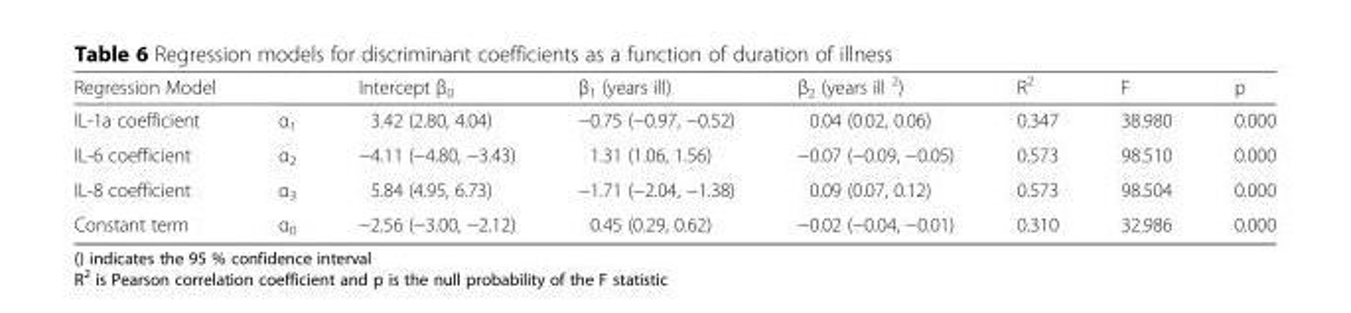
<table><thead><tr><td>Regression Model</td><td></td><td>Intercept β<sub>0</sub></td><td>β<sub>1</sub> (years ill)</td><td>β<sub>2</sub> (years ill <sup>2</sup>)</td><td>R<sup>2</sup></td><td>F</td><td>p</td></tr></thead><tbody><tr><td>IL-1a coefficient</td><td>α<sub>1</sub></td><td>3.42 (2.80, 4.04)</td><td>−0.75 (−0.97, −0.52)</td><td>0.04 (0.02, 0.06)</td><td>0.347</td><td>38.980</td><td>0.000</td></tr><tr><td>IL-6 coefficient</td><td>α<sub>2</sub></td><td>−4.11 (−4.80, −3.43)</td><td>1.31 (1.06, 1.56)</td><td>−0.07 (−0.09, −0.05)</td><td>0.573</td><td>98.510</td><td>0.000</td></tr><tr><td>IL-8 coefficient</td><td>α<sub>3</sub></td><td>5.84 (4.95, 6.73)</td><td>−1.71 (−2.04, −1.38)</td><td>0.09 (0.07, 0.12)</td><td>0.573</td><td>98.504</td><td>0.000</td></tr><tr><td>Constant term</td><td>α<sub>0</sub></td><td>−2.56 (−3.00, −2.12)</td><td>0.45 (0.29, 0.62)</td><td>−0.02 (−0.04, −0.01)</td><td>0.310</td><td>32.986</td><td>0.000</td></tr></tbody></table>